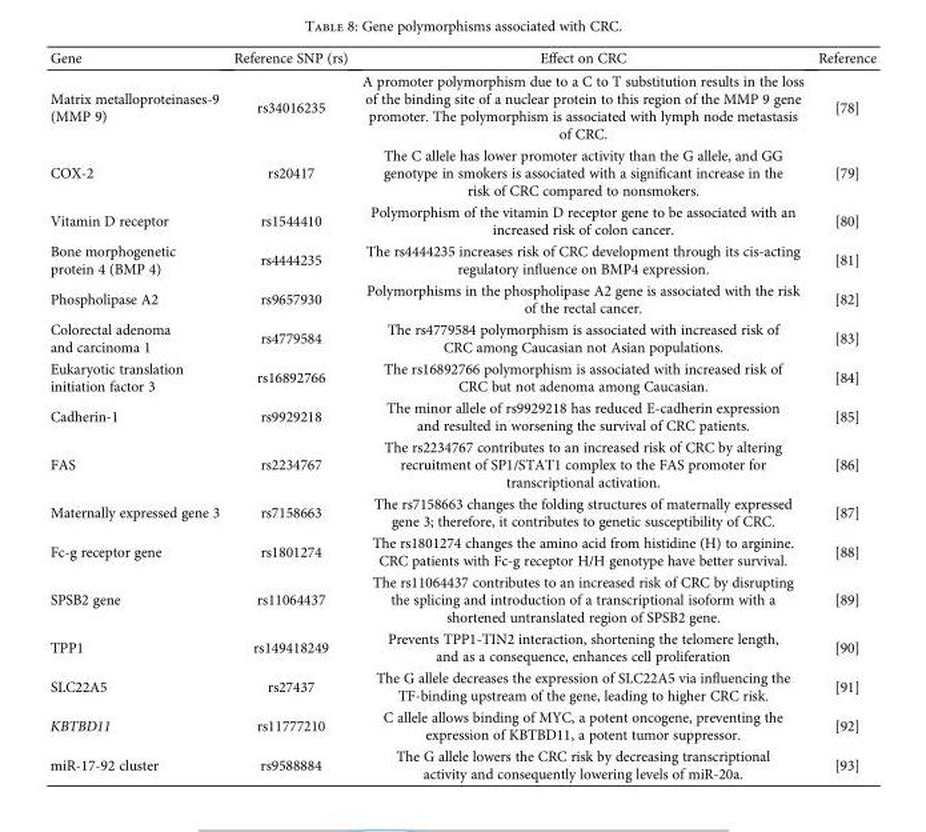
<table><thead><tr><td>Gene</td><td>Reference SNP (rs)</td><td>Effect on CRC</td><td>Reference</td></tr></thead><tbody><tr><td>Matrix metalloproteinases-9 (MMP 9)</td><td>rs34016235</td><td>A promoter polymorphism due to a C to T substitution results in the loss of the binding site of a nuclear protein to this region of the MMP 9 gene promoter. The polymorphism is associated with lymph node metastasis of CRC.</td><td>[78]</td></tr><tr><td>COX-2</td><td>rs20417</td><td>The C allele has lower promoter activity than the G allele, and GG genotype in smokers is associated with a significant increase in the risk of CRC compared to nonsmokers.</td><td>[79]</td></tr><tr><td>Vitamin D receptor</td><td>rs1544410</td><td>Polymorphism of the vitamin D receptor gene to be associated with an increased risk of colon cancer.</td><td>[80]</td></tr><tr><td>Bone morphogenetic protein 4 (BMP 4)</td><td>rs4444235</td><td>The rs4444235 increases risk of CRC development through its cis-acting regulatory influence on BMP4 expression.</td><td>[81]</td></tr><tr><td>Phospholipase A2</td><td>rs9657930</td><td>Polymorphisms in the phospholipase A2 gene is associated with the risk of the rectal cancer.</td><td>[82]</td></tr><tr><td>Colorectal adenoma and carcinoma 1</td><td>rs4779584</td><td>The rs4779584 polymorphism is associated with increased risk of CRC among Caucasian not Asian populations.</td><td>[83]</td></tr><tr><td>Eukaryotic translation initiation factor 3</td><td>rs16892766</td><td>The rs16892766 polymorphism is associated with increased risk of CRC but not adenoma among Caucasian.</td><td>[84]</td></tr><tr><td>Cadherin-1</td><td>rs9929218</td><td>The minor allele of rs9929218 has reduced E-cadherin expression and resulted in worsening the survival of CRC patients.</td><td>[85]</td></tr><tr><td>FAS</td><td>rs2234767</td><td>The rs2234767 contributes to an increased risk of CRC by altering recruitment of SP1/STAT1 complex to the FAS promoter for transcriptional activation.</td><td>[86]</td></tr><tr><td>Maternally expressed gene 3</td><td>rs7158663</td><td>The rs7158663 changes the folding structures of maternally expressed gene 3; therefore, it contributes to genetic susceptibility of CRC.</td><td>[87]</td></tr><tr><td>Fc-g receptor gene</td><td>rs1801274</td><td>The rs1801274 changes the amino acid from histidine (H) to arginine. CRC patients with Fc-g receptor H/H genotype have better survival.</td><td>[88]</td></tr><tr><td>SPSB2 gene</td><td>rs11064437</td><td>The rs11064437 contributes to an increased risk of CRC by disrupting the splicing and introduction of a transcriptional isoform with a shortened untranslated region of SPSB2 gene.</td><td>[89]</td></tr><tr><td>TPP1</td><td>rs149418249</td><td>Prevents TPP1-TIN2 interaction, shortening the telomere length, and as a consequence, enhances cell proliferation</td><td>[90]</td></tr><tr><td>SLC22A5</td><td>rs27437</td><td>The G allele decreases the expression of SLC22A5 via influencing the TF-binding upstream of the gene, leading to higher CRC risk.</td><td>[91]</td></tr><tr><td>KBTBD11</td><td>rs11777210</td><td>C allele allows binding of MYC, a potent oncogene, preventing the expression of KBTBD11, a potent tumor suppressor.</td><td>[92]</td></tr><tr><td>miR-17-92 cluster</td><td>rs9588884</td><td>The G allele lowers the CRC risk by decreasing transcriptional activity and consequently lowering levels of miR-20a.</td><td>[93]</td></tr></tbody></table>